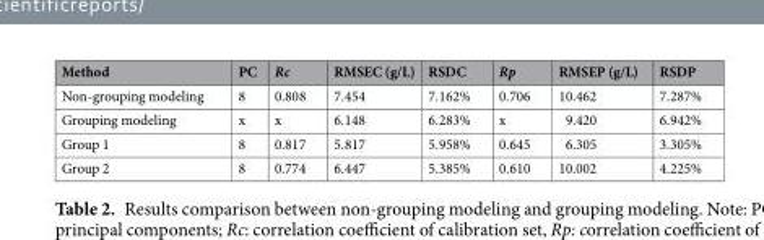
<table><thead><tr><td>Method</td><td>PC</td><td>Rc</td><td>RMSEC (g/L)</td><td>RSDC</td><td>Rp</td><td>RMSEP (g/L)</td><td>RSDP</td></tr></thead><tbody><tr><td>Non-grouping modeling</td><td>8</td><td>0.808</td><td>7.454</td><td>7.162%</td><td>0.706</td><td>10.462</td><td>7.287%</td></tr><tr><td>Grouping modeling</td><td>x</td><td>x</td><td>6.148</td><td>6.283%</td><td>x</td><td>9.420</td><td>6.942%</td></tr><tr><td>Group 1</td><td>8</td><td>0.817</td><td>5.817</td><td>5.958%</td><td>0.645</td><td>6.305</td><td>3.305%</td></tr><tr><td>Group 2</td><td>8</td><td>0.774</td><td>6.447</td><td>5.385%</td><td>0.610</td><td>10.002</td><td>4.225%</td></tr></tbody></table>